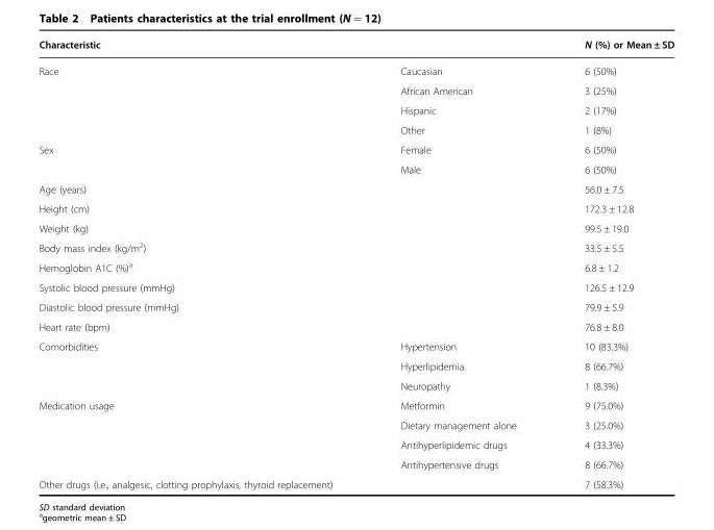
<table><thead><tr><td>Characteristic</td><td></td><td>N (%) or Mean ± SD</td></tr></thead><tbody><tr><td rowspan="4">Race</td><td>Caucasian</td><td>6 (50%)</td></tr><tr><td>African American</td><td>3 (25%)</td></tr><tr><td>Hispanic</td><td>2 (17%)</td></tr><tr><td>Other</td><td>1 (8%)</td></tr><tr><td rowspan="2">Sex</td><td>Female</td><td>6 (50%)</td></tr><tr><td>Male</td><td>6 (50%)</td></tr><tr><td>Age (years)</td><td></td><td>56.0 ± 7.5</td></tr><tr><td>Height (cm)</td><td></td><td>172.3 ± 12.8</td></tr><tr><td>Weight (kg)</td><td></td><td>99.5 ± 19.0</td></tr><tr><td>Body mass index (kg/m<sup>2</sup>)</td><td></td><td>33.5 ± 5.5</td></tr><tr><td>Hemoglobin A1C (%)<sup>a</sup></td><td></td><td>6.8 ± 1.2</td></tr><tr><td>Systolic blood pressure (mmHg)</td><td></td><td>126.5 ± 12.9</td></tr><tr><td>Diastolic blood pressure (mmHg)</td><td></td><td>79.9 ± 5.9</td></tr><tr><td>Heart rate (bpm)</td><td></td><td>76.8 ± 8.0</td></tr><tr><td rowspan="3">Comorbidities</td><td>Hypertension</td><td>10 (83.3%)</td></tr><tr><td>Hyperlipidemia</td><td>8 (66.7%)</td></tr><tr><td>Neuropathy</td><td>1 (8.3%)</td></tr><tr><td rowspan="4">Medication usage</td><td>Metformin</td><td>9 (75.0%)</td></tr><tr><td>Dietary management alone</td><td>3 (25.0%)</td></tr><tr><td>Antihyperlipidemic drugs</td><td>4 (33.3%)</td></tr><tr><td>Antihypertensive drugs</td><td>8 (66.7%)</td></tr><tr><td>Other drugs (i.e., analgesic, clotting prophylaxis, thyroid replacement)</td><td></td><td>7 (58.3%)</td></tr></tbody></table>